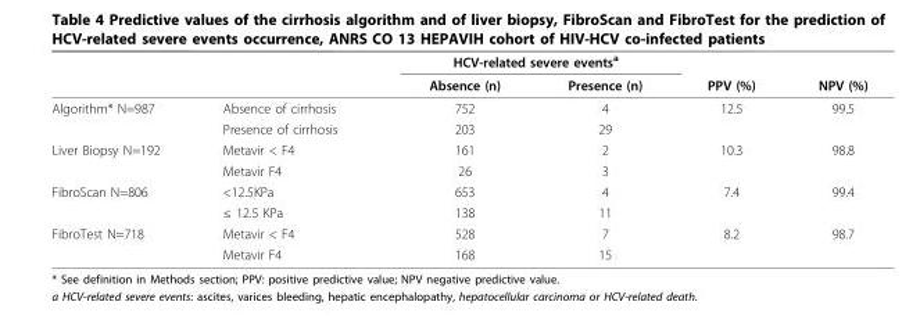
<table><thead><tr><td rowspan="2"></td><td rowspan="2"></td><td colspan="2">HCV-related severe events<sup>a</sup></td><td rowspan="2">PPV (%)</td><td rowspan="2">NPV (%)</td></tr><tr><td>Absence (n)</td><td>Presence (n)</td></tr></thead><tbody><tr><td rowspan="2">Algorithm* N=987</td><td>Absence of cirrhosis</td><td>752</td><td>4</td><td>12.5</td><td>99.5</td></tr><tr><td>Presence of cirrhosis</td><td>203</td><td>29</td><td></td><td></td></tr><tr><td rowspan="2">Liver Biopsy N=192</td><td>Metavir &lt; F4</td><td>161</td><td>2</td><td>10.3</td><td>98.8</td></tr><tr><td>Metavir F4</td><td>26</td><td>3</td><td></td><td></td></tr><tr><td rowspan="2">FibroScan N=806</td><td>&lt;12.5KPa</td><td>653</td><td>4</td><td>7.4</td><td>99.4</td></tr><tr><td>≤ 12.5 KPa</td><td>138</td><td>11</td><td></td><td></td></tr><tr><td rowspan="2">FibroTest N=718</td><td>Metavir &lt; F4</td><td>528</td><td>7</td><td>8.2</td><td>98.7</td></tr><tr><td>Metavir F4</td><td>168</td><td>15</td><td></td><td></td></tr></tbody></table>